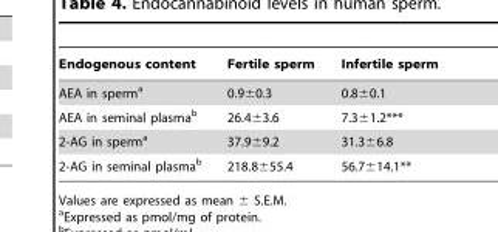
<table><thead><tr><td>Endogenous content</td><td>Fertile sperm</td><td>Infertile sperm</td></tr></thead><tbody><tr><td>AEA in sperm<sup>a</sup></td><td>0.9±0.3</td><td>0.8±0.1</td></tr><tr><td>AEA in seminal plasma<sup>b</sup></td><td>26.4±3.6</td><td>7.3±1.2***</td></tr><tr><td>2-AG in sperm<sup>a</sup></td><td>37.9±9.2</td><td>31.3±6.8</td></tr><tr><td>2-AG in seminal plasma<sup>b</sup></td><td>218.8±55.4</td><td>56.7±14.1**</td></tr></tbody></table>